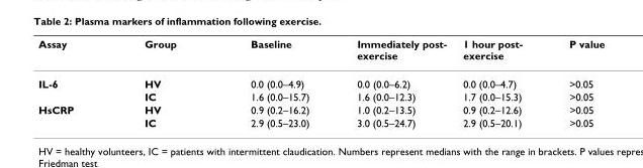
<table><thead><tr><td>Assay</td><td>Group</td><td>Baseline</td><td>Immediately post- exercise</td><td>1 hour post- exercise</td><td>P value</td></tr></thead><tbody><tr><td rowspan="2">IL-6</td><td>HV</td><td>0.0 (0.0–4.9)</td><td>0.0 (0.0–6.2)</td><td>0.0 (0.0–4.7)</td><td>&gt;0.05</td></tr><tr><td>IC</td><td>1.6 (0.0–15.7)</td><td>1.6 (0.0–12.3)</td><td>1.7 (0.0–15.3)</td><td>&gt;0.05</td></tr><tr><td rowspan="2">HsCRP</td><td>HV</td><td>0.9 (0.2–16.2)</td><td>1.0 (0.2–13.5)</td><td>0.9 (0.2–12.6)</td><td>&gt;0.05</td></tr><tr><td>IC</td><td>2.9 (0.5–23.0)</td><td>3.0 (0.5–24.7)</td><td>2.9 (0.5–20.1)</td><td>&gt;0.05</td></tr></tbody></table>